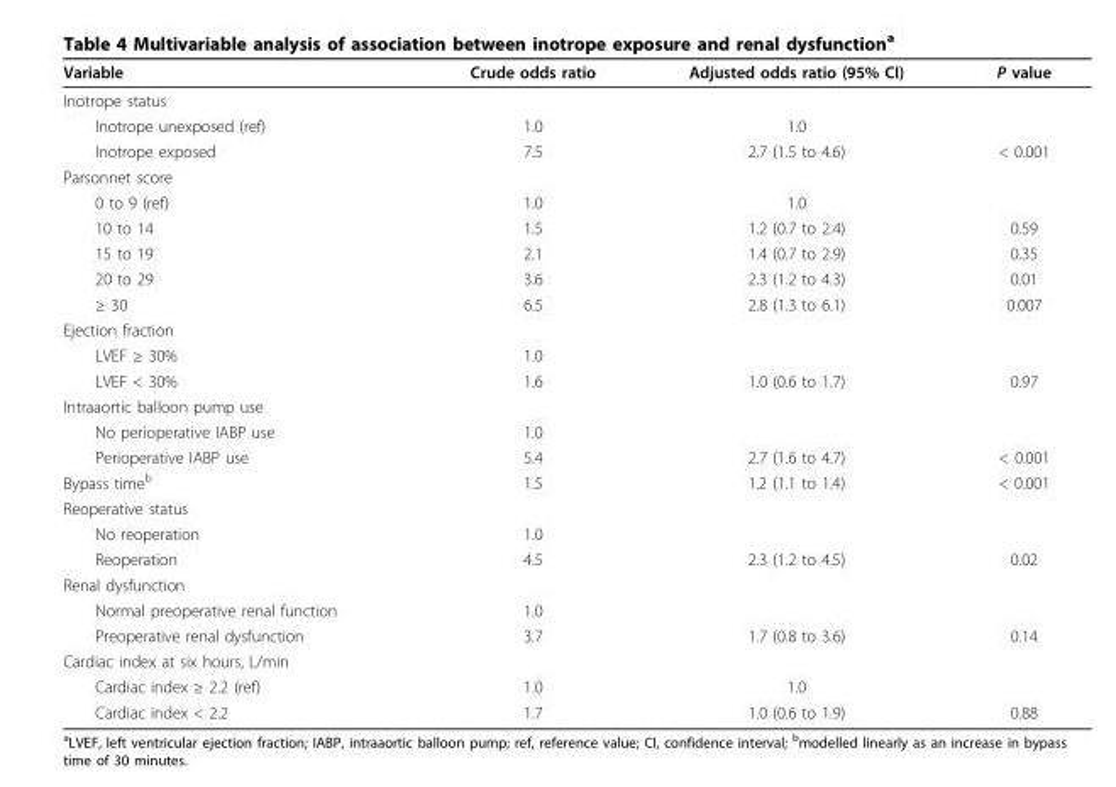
<table><thead><tr><td>Variable</td><td>Crude odds ratio</td><td>Adjusted odds ratio (95% CI)</td><td>P value</td></tr></thead><tbody><tr><td colspan="4">Inotrope status</td></tr><tr><td>Inotrope unexposed (ref)</td><td>1.0</td><td>1.0</td><td></td></tr><tr><td>Inotrope exposed</td><td>7.5</td><td>2.7 (1.5 to 4.6)</td><td>&lt; 0.001</td></tr><tr><td colspan="4">Parsonnet score</td></tr><tr><td>0 to 9 (ref)</td><td>1.0</td><td>1.0</td><td></td></tr><tr><td>10 to 14</td><td>1.5</td><td>1.2 (0.7 to 2.4)</td><td>0.59</td></tr><tr><td>15 to 19</td><td>2.1</td><td>1.4 (0.7 to 2.9)</td><td>0.35</td></tr><tr><td>20 to 29</td><td>3.6</td><td>2.3 (1.2 to 4.3)</td><td>0.01</td></tr><tr><td>≥ 30</td><td>6.5</td><td>2.8 (1.3 to 6.1)</td><td>0.007</td></tr><tr><td colspan="4">Ejection fraction</td></tr><tr><td>LVEF ≥ 30%</td><td>1.0</td><td></td><td></td></tr><tr><td>LVEF &lt; 30%</td><td>1.6</td><td>1.0 (0.6 to 1.7)</td><td>0.97</td></tr><tr><td colspan="4">Intraaortic balloon pump use</td></tr><tr><td>No perioperative IABP use</td><td>1.0</td><td></td><td></td></tr><tr><td>Perioperative IABP use</td><td>5.4</td><td>2.7 (1.6 to 4.7)</td><td>&lt; 0.001</td></tr><tr><td>Bypass time<sup>b</sup></td><td>1.5</td><td>1.2 (1.1 to 1.4)</td><td>&lt; 0.001</td></tr><tr><td colspan="4">Reoperative status</td></tr><tr><td>No reoperation</td><td>1.0</td><td></td><td></td></tr><tr><td>Reoperation</td><td>4.5</td><td>2.3 (1.2 to 4.5)</td><td>0.02</td></tr><tr><td colspan="4">Renal dysfunction</td></tr><tr><td>Normal preoperative renal function</td><td>1.0</td><td></td><td></td></tr><tr><td>Preoperative renal dysfunction</td><td>3.7</td><td>1.7 (0.8 to 3.6)</td><td>0.14</td></tr><tr><td colspan="4">Cardiac index at six hours, L/min</td></tr><tr><td>Cardiac index ≥ 2.2 (ref)</td><td>1.0</td><td>1.0</td><td></td></tr><tr><td>Cardiac index &lt; 2.2</td><td>1.7</td><td>1.0 (0.6 to 1.9)</td><td>0.88</td></tr></tbody></table>